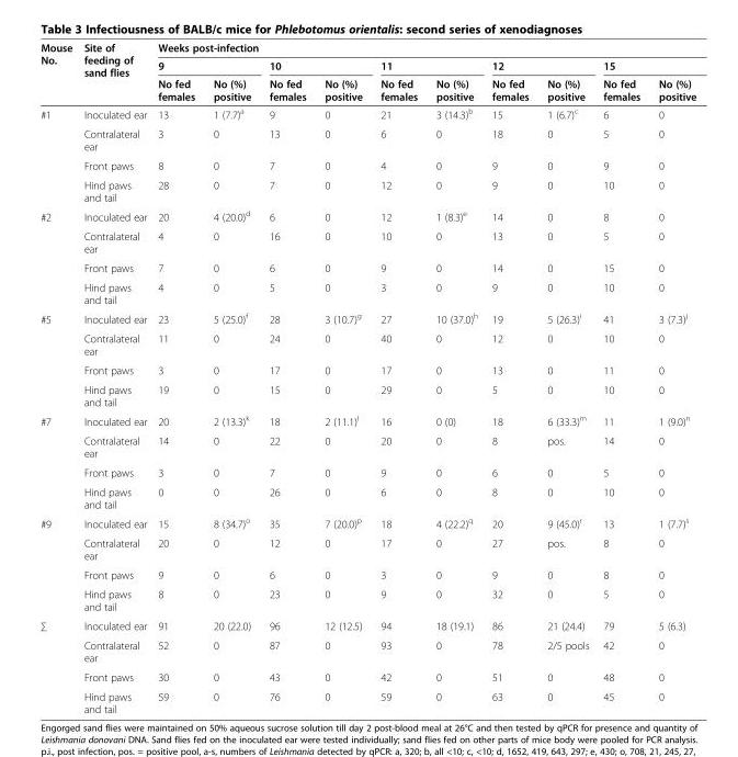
<table><thead><tr><td rowspan="3">Mouse No.</td><td rowspan="3">Site of feeding of sand flies</td><td colspan="10">Weeks post-infection</td></tr><tr><td colspan="2">9</td><td colspan="2">10</td><td colspan="2">11</td><td colspan="2">12</td><td colspan="2">15</td></tr><tr><td>No fed females</td><td>No (%) positive</td><td>No fed females</td><td>No (%) positive</td><td>No fed females</td><td>No (%) positive</td><td>No fed females</td><td>No (%) positive</td><td>No fed females</td><td>No (%) positive</td></tr></thead><tbody><tr><td rowspan="4">#1</td><td>Inoculated ear</td><td>13</td><td>1 (7.7)<sup>a</sup></td><td>9</td><td>0</td><td>21</td><td>3 (14.3)<sup>b</sup></td><td>15</td><td>1 (6.7)<sup>c</sup></td><td>6</td><td>0</td></tr><tr><td>Contralateral ear</td><td>3</td><td>0</td><td>13</td><td>0</td><td>6</td><td>0</td><td>18</td><td>0</td><td>5</td><td>0</td></tr><tr><td>Front paws</td><td>8</td><td>0</td><td>7</td><td>0</td><td>4</td><td>0</td><td>9</td><td>0</td><td>9</td><td>0</td></tr><tr><td>Hind paws and tail</td><td>28</td><td>0</td><td>7</td><td>0</td><td>12</td><td>0</td><td>9</td><td>0</td><td>10</td><td>0</td></tr><tr><td rowspan="4">#2</td><td>Inoculated ear</td><td>20</td><td>4 (20.0)<sup>d</sup></td><td>6</td><td>0</td><td>12</td><td>1 (8.3)<sup>e</sup></td><td>14</td><td>0</td><td>8</td><td>0</td></tr><tr><td>Contralateral ear</td><td>4</td><td>0</td><td>16</td><td>0</td><td>10</td><td>0</td><td>13</td><td>0</td><td>5</td><td>0</td></tr><tr><td>Front paws</td><td>7</td><td>0</td><td>6</td><td>0</td><td>9</td><td>0</td><td>14</td><td>0</td><td>15</td><td>0</td></tr><tr><td>Hind paws and tail</td><td>4</td><td>0</td><td>5</td><td>0</td><td>3</td><td>0</td><td>9</td><td>0</td><td>10</td><td>0</td></tr><tr><td rowspan="4">#5</td><td>Inoculated ear</td><td>23</td><td>5 (25.0)<sup>f</sup></td><td>28</td><td>3 (10.7)<sup>g</sup></td><td>27</td><td>10 (37.0)<sup>h</sup></td><td>19</td><td>5 (26.3)<sup>i</sup></td><td>41</td><td>3 (7.3)<sup>j</sup></td></tr><tr><td>Contralateral ear</td><td>11</td><td>0</td><td>24</td><td>0</td><td>40</td><td>0</td><td>12</td><td>0</td><td>10</td><td>0</td></tr><tr><td>Front paws</td><td>3</td><td>0</td><td>17</td><td>0</td><td>17</td><td>0</td><td>13</td><td>0</td><td>11</td><td>0</td></tr><tr><td>Hind paws and tail</td><td>19</td><td>0</td><td>15</td><td>0</td><td>29</td><td>0</td><td>5</td><td>0</td><td>10</td><td>0</td></tr><tr><td rowspan="4">#7</td><td>Inoculated ear</td><td>20</td><td>2 (13.3)<sup>k</sup></td><td>18</td><td>2 (11.1)<sup>l</sup></td><td>16</td><td>0 (0)</td><td>18</td><td>6 (33.3)<sup>m</sup></td><td>11</td><td>1 (9.0)<sup>n</sup></td></tr><tr><td>Contralateral ear</td><td>14</td><td>0</td><td>22</td><td>0</td><td>20</td><td>0</td><td>8</td><td>pos.</td><td>14</td><td>0</td></tr><tr><td>Front paws</td><td>3</td><td>0</td><td>7</td><td>0</td><td>9</td><td>0</td><td>6</td><td>0</td><td>5</td><td>0</td></tr><tr><td>Hind paws and tail</td><td>0</td><td>0</td><td>26</td><td>0</td><td>6</td><td>0</td><td>8</td><td>0</td><td>10</td><td>0</td></tr><tr><td rowspan="4">#9</td><td>Inoculated ear</td><td>15</td><td>8 (34.7)<sup>o</sup></td><td>35</td><td>7 (20.0)<sup>p</sup></td><td>18</td><td>4 (22.2)<sup>q</sup></td><td>20</td><td>9 (45.0)<sup>r</sup></td><td>13</td><td>1 (7.7)<sup>s</sup></td></tr><tr><td>Contralateral ear</td><td>20</td><td>0</td><td>12</td><td>0</td><td>17</td><td>0</td><td>27</td><td>pos.</td><td>8</td><td>0</td></tr><tr><td>Front paws</td><td>9</td><td>0</td><td>6</td><td>0</td><td>3</td><td>0</td><td>9</td><td>0</td><td>8</td><td>0</td></tr><tr><td>Hind paws and tail</td><td>8</td><td>0</td><td>23</td><td>0</td><td>9</td><td>0</td><td>32</td><td>0</td><td>5</td><td>0</td></tr><tr><td rowspan="4">∑</td><td>Inoculated ear</td><td>91</td><td>20 (22.0)</td><td>96</td><td>12 (12.5)</td><td>94</td><td>18 (19.1)</td><td>86</td><td>21 (24.4)</td><td>79</td><td>5 (6.3)</td></tr><tr><td>Contralateral ear</td><td>52</td><td>0</td><td>87</td><td>0</td><td>93</td><td>0</td><td>78</td><td>2/5 pools</td><td>42</td><td>0</td></tr><tr><td>Front paws</td><td>30</td><td>0</td><td>43</td><td>0</td><td>42</td><td>0</td><td>51</td><td>0</td><td>48</td><td>0</td></tr><tr><td>Hind paws and tail</td><td>59</td><td>0</td><td>76</td><td>0</td><td>59</td><td>0</td><td>63</td><td>0</td><td>45</td><td>0</td></tr></tbody></table>